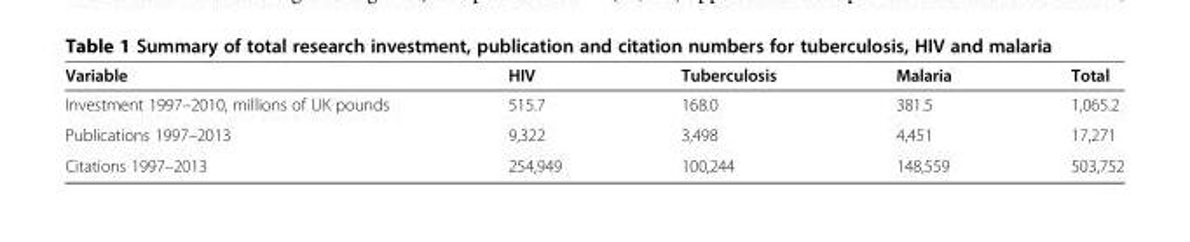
<table><thead><tr><td>Variable</td><td>HIV</td><td>Tuberculosis</td><td>Malaria</td><td>Total</td></tr></thead><tbody><tr><td>Investment 1997–2010, millions of UK pounds</td><td>515.7</td><td>168.0</td><td>381.5</td><td>1,065.2</td></tr><tr><td>Publications 1997–2013</td><td>9,322</td><td>3,498</td><td>4,451</td><td>17,271</td></tr><tr><td>Citations 1997–2013</td><td>254,949</td><td>100,244</td><td>148,559</td><td>503,752</td></tr></tbody></table>